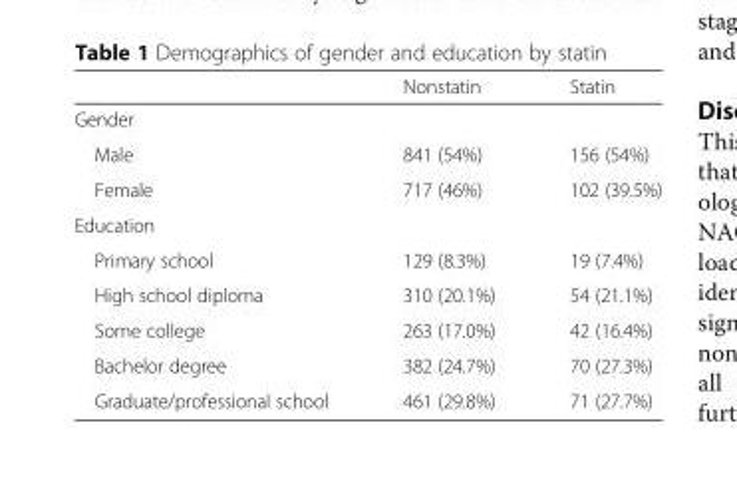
<table><thead><tr><td></td><td>Nonstatin</td><td>Statin</td></tr></thead><tbody><tr><td colspan="3">Gender</td></tr><tr><td>Male</td><td>841 (54%)</td><td>156 (54%)</td></tr><tr><td>Female</td><td>717 (46%)</td><td>102 (39.5%)</td></tr><tr><td colspan="3">Education</td></tr><tr><td>Primary school</td><td>129 (8.3%)</td><td>19 (7.4%)</td></tr><tr><td>High school diploma</td><td>310 (20.1%)</td><td>54 (21.1%)</td></tr><tr><td>Some college</td><td>263 (17.0%)</td><td>42 (16.4%)</td></tr><tr><td>Bachelor degree</td><td>382 (24.7%)</td><td>70 (27.3%)</td></tr><tr><td>Graduate/professional school</td><td>461 (29.8%)</td><td>71 (27.7%)</td></tr></tbody></table>